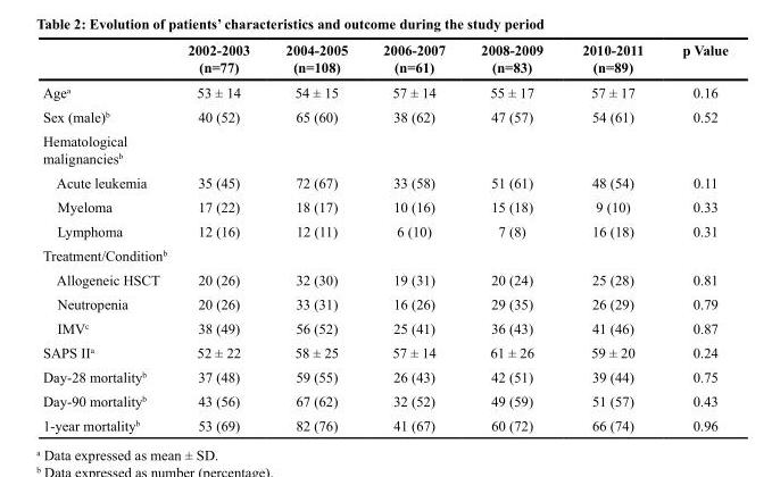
<table><thead><tr><td></td><td>2002-2003 (n=77)</td><td>2004-2005 (n=108)</td><td>2006-2007 (n=61)</td><td>2008-2009 (n=83)</td><td>2010-2011 (n=89)</td><td>p Value</td></tr></thead><tbody><tr><td>Age<sup>a</sup></td><td>53 ± 14</td><td>54 ± 15</td><td>57 ± 14</td><td>55 ± 17</td><td>57 ± 17</td><td>0.16</td></tr><tr><td>Sex (male)<sup>b</sup></td><td>40 (52)</td><td>65 (60)</td><td>38 (62)</td><td>47 (57)</td><td>54 (61)</td><td>0.52</td></tr><tr><td colspan="7">Hematological malignancies<sup>b</sup></td></tr><tr><td>Acute leukemia</td><td>35 (45)</td><td>72 (67)</td><td>33 (58)</td><td>51 (61)</td><td>48 (54)</td><td>0.11</td></tr><tr><td>Myeloma</td><td>17 (22)</td><td>18 (17)</td><td>10 (16)</td><td>15 (18)</td><td>9 (10)</td><td>0.33</td></tr><tr><td>Lymphoma</td><td>12 (16)</td><td>12 (11)</td><td>6 (10)</td><td>7 (8)</td><td>16 (18)</td><td>0.31</td></tr><tr><td colspan="7">Treatment/Condition<sup>b</sup></td></tr><tr><td>Allogeneic HSCT</td><td>20 (26)</td><td>32 (30)</td><td>19 (31)</td><td>20 (24)</td><td>25 (28)</td><td>0.81</td></tr><tr><td>Neutropenia</td><td>20 (26)</td><td>33 (31)</td><td>16 (26)</td><td>29 (35)</td><td>26 (29)</td><td>0.79</td></tr><tr><td>IMV<sup>c</sup></td><td>38 (49)</td><td>56 (52)</td><td>25 (41)</td><td>36 (43)</td><td>41 (46)</td><td>0.87</td></tr><tr><td>SAPS II<sup>a</sup></td><td>52 ± 22</td><td>58 ± 25</td><td>57 ± 14</td><td>61 ± 26</td><td>59 ± 20</td><td>0.24</td></tr><tr><td>Day-28 mortality<sup>b</sup></td><td>37 (48)</td><td>59 (55)</td><td>26 (43)</td><td>42 (51)</td><td>39 (44)</td><td>0.75</td></tr><tr><td>Day-90 mortality<sup>b</sup></td><td>43 (56)</td><td>67 (62)</td><td>32 (52)</td><td>49 (59)</td><td>51 (57)</td><td>0.43</td></tr><tr><td>1-year mortality<sup>b</sup></td><td>53 (69)</td><td>82 (76)</td><td>41 (67)</td><td>60 (72)</td><td>66 (74)</td><td>0.96</td></tr></tbody></table>